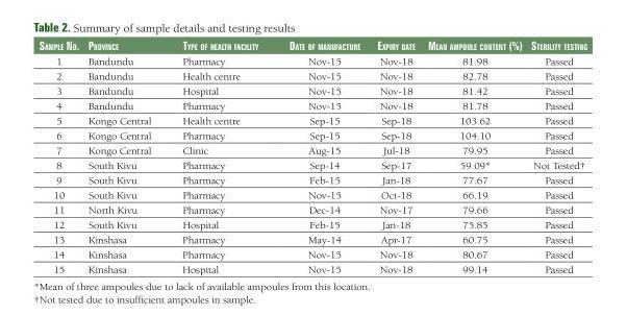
<table><thead><tr><td>Sample No.</td><td>proviNce</td><td>type oF health Facility</td><td>Date oF maNuFacture</td><td>expiry Date</td><td>meaN ampoule coNteNt (%)</td><td>Sterility teStiNg</td></tr></thead><tbody><tr><td>1</td><td>Bandundu</td><td>Pharmacy</td><td>Nov-15</td><td>Nov-18</td><td>81.98</td><td>Passed</td></tr><tr><td>2</td><td>Bandundu</td><td>Health centre</td><td>Nov-15</td><td>Nov-18</td><td>82.78</td><td>Passed</td></tr><tr><td>3</td><td>Bandundu</td><td>Hospital</td><td>Nov-15</td><td>Nov-18</td><td>81.42</td><td>Passed</td></tr><tr><td>4</td><td>Bandundu</td><td>Pharmacy</td><td>Nov-15</td><td>Nov-18</td><td>81.78</td><td>Passed</td></tr><tr><td>5</td><td>Kongo Central</td><td>Health centre</td><td>Sep-15</td><td>Sep-18</td><td>103.62</td><td>Passed</td></tr><tr><td>6</td><td>Kongo Central</td><td>Pharmacy</td><td>Sep-15</td><td>Sep-18</td><td>104.10</td><td>Passed</td></tr><tr><td>7</td><td>Kongo Central</td><td>Clinic</td><td>Aug-15</td><td>Jul-18</td><td>79.95</td><td>Passed</td></tr><tr><td>8</td><td>South Kivu</td><td>Pharmacy</td><td>Sep-14</td><td>Sep-17</td><td>59.09*</td><td>Not Tested†</td></tr><tr><td>9</td><td>South Kivu</td><td>Pharmacy</td><td>Feb-15</td><td>Jan-18</td><td>77.67</td><td>Passed</td></tr><tr><td>10</td><td>South Kivu</td><td>Pharmacy</td><td>Nov-15</td><td>Oct-18</td><td>66.19</td><td>Passed</td></tr><tr><td>11</td><td>North Kivu</td><td>Pharmacy</td><td>Dec-14</td><td>Nov-17</td><td>79.66</td><td>Passed</td></tr><tr><td>12</td><td>South Kivu</td><td>Hospital</td><td>Feb-15</td><td>Jan-18</td><td>75.85</td><td>Passed</td></tr><tr><td>13</td><td>Kinshasa</td><td>Pharmacy</td><td>May-14</td><td>Apr-17</td><td>60.75</td><td>Passed</td></tr><tr><td>14</td><td>Kinshasa</td><td>Pharmacy</td><td>Nov-15</td><td>Nov-18</td><td>80.67</td><td>Passed</td></tr><tr><td>15</td><td>Kinshasa</td><td>Hospital</td><td>Nov-15</td><td>Nov-18</td><td>99.14</td><td>Passed</td></tr></tbody></table>